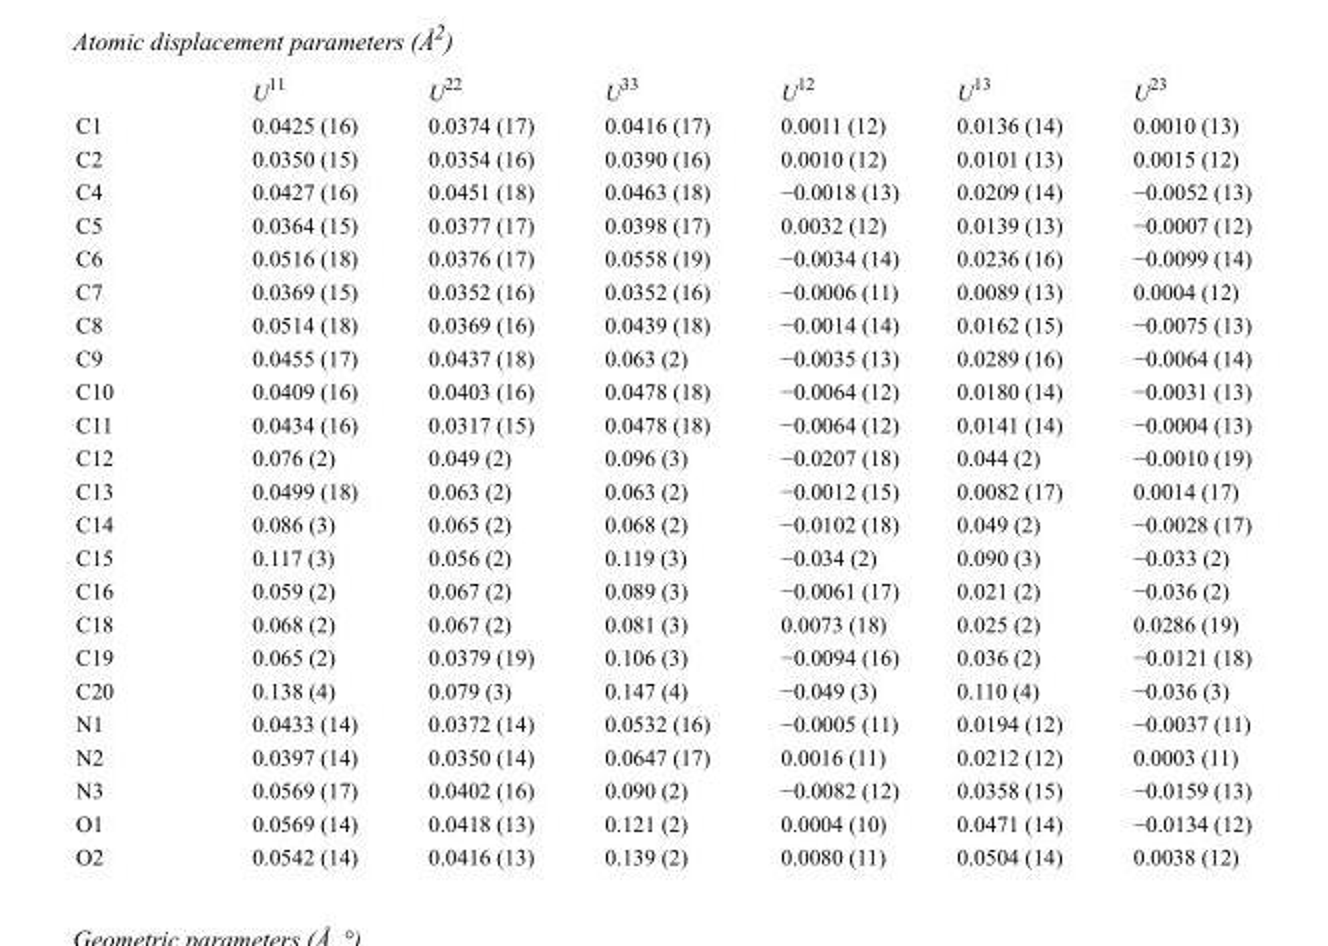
<table><thead><tr><td></td><td>U<sup>11</sup></td><td>U<sup>22</sup></td><td>U<sup>33</sup></td><td>U<sup>12</sup></td><td>U<sup>13</sup></td><td>U<sup>23</sup></td></tr></thead><tbody><tr><td>C1</td><td>0.0425 (16)</td><td>0.0374 (17)</td><td>0.0416 (17)</td><td>0.0011 (12)</td><td>0.0136 (14)</td><td>0.0010 (13)</td></tr><tr><td>C2</td><td>0.0350 (15)</td><td>0.0354 (16)</td><td>0.0390 (16)</td><td>0.0010 (12)</td><td>0.0101 (13)</td><td>0.0015 (12)</td></tr><tr><td>C4</td><td>0.0427 (16)</td><td>0.0451 (18)</td><td>0.0463 (18)</td><td>−0.0018 (13)</td><td>0.0209 (14)</td><td>−0.0052 (13)</td></tr><tr><td>C5</td><td>0.0364 (15)</td><td>0.0377 (17)</td><td>0.0398 (17)</td><td>0.0032 (12)</td><td>0.0139 (13)</td><td>−0.0007 (12)</td></tr><tr><td>C6</td><td>0.0516 (18)</td><td>0.0376 (17)</td><td>0.0558 (19)</td><td>−0.0034 (14)</td><td>0.0236 (16)</td><td>−0.0099 (14)</td></tr><tr><td>C7</td><td>0.0369 (15)</td><td>0.0352 (16)</td><td>0.0352 (16)</td><td>−0.0006 (11)</td><td>0.0089 (13)</td><td>0.0004 (12)</td></tr><tr><td>C8</td><td>0.0514 (18)</td><td>0.0369 (16)</td><td>0.0439 (18)</td><td>−0.0014 (14)</td><td>0.0162 (15)</td><td>−0.0075 (13)</td></tr><tr><td>C9</td><td>0.0455 (17)</td><td>0.0437 (18)</td><td>0.063 (2)</td><td>−0.0035 (13)</td><td>0.0289 (16)</td><td>−0.0064 (14)</td></tr><tr><td>C10</td><td>0.0409 (16)</td><td>0.0403 (16)</td><td>0.0478 (18)</td><td>−0.0064 (12)</td><td>0.0180 (14)</td><td>−0.0031 (13)</td></tr><tr><td>C11</td><td>0.0434 (16)</td><td>0.0317 (15)</td><td>0.0478 (18)</td><td>−0.0064 (12)</td><td>0.0141 (14)</td><td>−0.0004 (13)</td></tr><tr><td>C12</td><td>0.076 (2)</td><td>0.049 (2)</td><td>0.096 (3)</td><td>−0.0207 (18)</td><td>0.044 (2)</td><td>−0.0010 (19)</td></tr><tr><td>C13</td><td>0.0499 (18)</td><td>0.063 (2)</td><td>0.063 (2)</td><td>−0.0012 (15)</td><td>0.0082 (17)</td><td>0.0014 (17)</td></tr><tr><td>C14</td><td>0.086 (3)</td><td>0.065 (2)</td><td>0.068 (2)</td><td>−0.0102 (18)</td><td>0.049 (2)</td><td>−0.0028 (17)</td></tr><tr><td>C15</td><td>0.117 (3)</td><td>0.056 (2)</td><td>0.119 (3)</td><td>−0.034 (2)</td><td>0.090 (3)</td><td>−0.033 (2)</td></tr><tr><td>C16</td><td>0.059 (2)</td><td>0.067 (2)</td><td>0.089 (3)</td><td>−0.0061 (17)</td><td>0.021 (2)</td><td>−0.036 (2)</td></tr><tr><td>C18</td><td>0.068 (2)</td><td>0.067 (2)</td><td>0.081 (3)</td><td>0.0073 (18)</td><td>0.025 (2)</td><td>0.0286 (19)</td></tr><tr><td>C19</td><td>0.065 (2)</td><td>0.0379 (19)</td><td>0.106 (3)</td><td>−0.0094 (16)</td><td>0.036 (2)</td><td>−0.0121 (18)</td></tr><tr><td>C20</td><td>0.138 (4)</td><td>0.079 (3)</td><td>0.147 (4)</td><td>−0.049 (3)</td><td>0.110 (4)</td><td>−0.036 (3)</td></tr><tr><td>N1</td><td>0.0433 (14)</td><td>0.0372 (14)</td><td>0.0532 (16)</td><td>−0.0005 (11)</td><td>0.0194 (12)</td><td>−0.0037 (11)</td></tr><tr><td>N2</td><td>0.0397 (14)</td><td>0.0350 (14)</td><td>0.0647 (17)</td><td>0.0016 (11)</td><td>0.0212 (12)</td><td>0.0003 (11)</td></tr><tr><td>N3</td><td>0.0569 (17)</td><td>0.0402 (16)</td><td>0.090 (2)</td><td>−0.0082 (12)</td><td>0.0358 (15)</td><td>−0.0159 (13)</td></tr><tr><td>O1</td><td>0.0569 (14)</td><td>0.0418 (13)</td><td>0.121 (2)</td><td>0.0004 (10)</td><td>0.0471 (14)</td><td>−0.0134 (12)</td></tr><tr><td>O2</td><td>0.0542 (14)</td><td>0.0416 (13)</td><td>0.139 (2)</td><td>0.0080 (11)</td><td>0.0504 (14)</td><td>0.0038 (12)</td></tr></tbody></table>